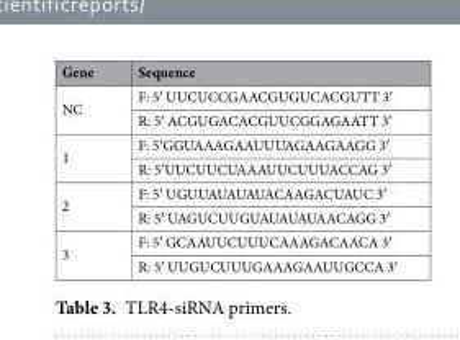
<table><thead><tr><td>Gene</td><td>Sequence</td></tr></thead><tbody><tr><td rowspan="2">NC</td><td>F: 5′ UUCUCCGAACGUGUCACGUTT 3′</td></tr><tr><td>R: 5′ ACGUGACACGUUCGGAGAATT 3′</td></tr><tr><td rowspan="2">1</td><td>F: 5′GGUAAAGAAUUUAGAAGAAGG 3′</td></tr><tr><td>R: 5′UUCUUCUAAAUUCUUUACCAG 3′</td></tr><tr><td rowspan="2">2</td><td>F: 5′ UGUUAUAUAUACAAGACUAUC 3′</td></tr><tr><td>R: 5′ UAGUCUUGUAUAUAUAACAGG 3′</td></tr><tr><td rowspan="2">3</td><td>F: 5′ GCAAUUCUUUCAAAGACAACA 3′</td></tr><tr><td>R: 5′ UUGUCUUUGAAAGAAUUGCCA 3′</td></tr></tbody></table>